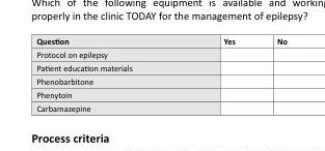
<table><thead><tr><td>Question</td><td>Yes</td><td>No</td></tr></thead><tbody><tr><td colspan="3">Protocol on epilepsy</td></tr><tr><td colspan="3">Patient education materials</td></tr><tr><td colspan="3">Phenobarbitone</td></tr><tr><td colspan="3">Phenytoin</td></tr><tr><td>Carbamazepine</td><td></td><td></td></tr></tbody></table>